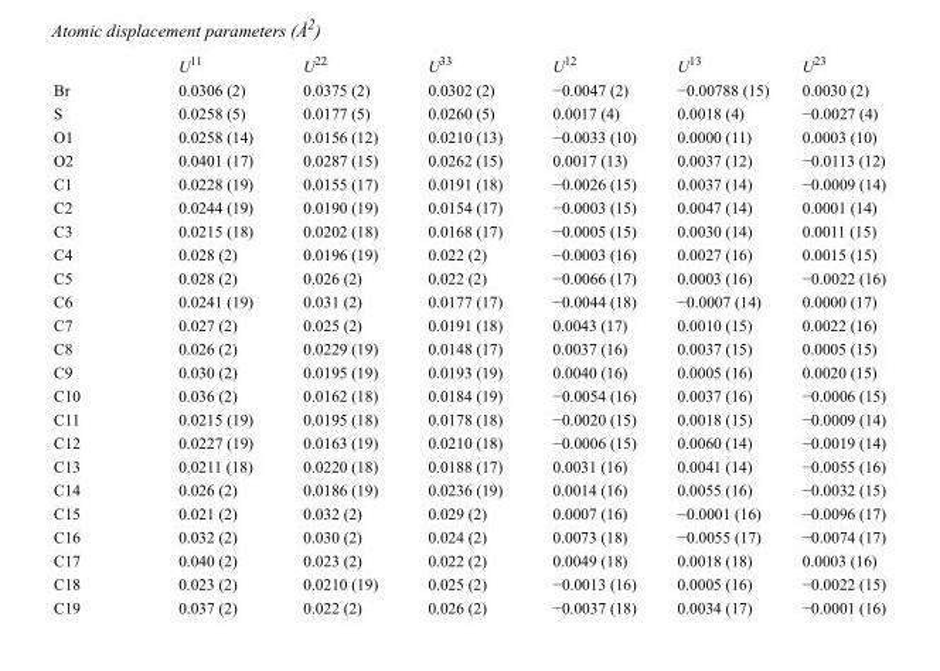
<table><thead><tr><td></td><td>U<sup>11</sup></td><td>U<sup>22</sup></td><td>U<sup>33</sup></td><td>U<sup>12</sup></td><td>U<sup>13</sup></td><td>U<sup>23</sup></td></tr></thead><tbody><tr><td>Br</td><td>0.0306 (2)</td><td>0.0375 (2)</td><td>0.0302 (2)</td><td>−0.0047 (2)</td><td>−0.00788 (15)</td><td>0.0030 (2)</td></tr><tr><td>S</td><td>0.0258 (5)</td><td>0.0177 (5)</td><td>0.0260 (5)</td><td>0.0017 (4)</td><td>0.0018 (4)</td><td>−0.0027 (4)</td></tr><tr><td>O1</td><td>0.0258 (14)</td><td>0.0156 (12)</td><td>0.0210 (13)</td><td>−0.0033 (10)</td><td>0.0000 (11)</td><td>0.0003 (10)</td></tr><tr><td>O2</td><td>0.0401 (17)</td><td>0.0287 (15)</td><td>0.0262 (15)</td><td>0.0017 (13)</td><td>0.0037 (12)</td><td>−0.0113 (12)</td></tr><tr><td>C1</td><td>0.0228 (19)</td><td>0.0155 (17)</td><td>0.0191 (18)</td><td>−0.0026 (15)</td><td>0.0037 (14)</td><td>−0.0009 (14)</td></tr><tr><td>C2</td><td>0.0244 (19)</td><td>0.0190 (19)</td><td>0.0154 (17)</td><td>−0.0003 (15)</td><td>0.0047 (14)</td><td>0.0001 (14)</td></tr><tr><td>C3</td><td>0.0215 (18)</td><td>0.0202 (18)</td><td>0.0168 (17)</td><td>−0.0005 (15)</td><td>0.0030 (14)</td><td>0.0011 (15)</td></tr><tr><td>C4</td><td>0.028 (2)</td><td>0.0196 (19)</td><td>0.022 (2)</td><td>−0.0003 (16)</td><td>0.0027 (16)</td><td>0.0015 (15)</td></tr><tr><td>C5</td><td>0.028 (2)</td><td>0.026 (2)</td><td>0.022 (2)</td><td>−0.0066 (17)</td><td>0.0003 (16)</td><td>−0.0022 (16)</td></tr><tr><td>C6</td><td>0.0241 (19)</td><td>0.031 (2)</td><td>0.0177 (17)</td><td>−0.0044 (18)</td><td>−0.0007 (14)</td><td>0.0000 (17)</td></tr><tr><td>C7</td><td>0.027 (2)</td><td>0.025 (2)</td><td>0.0191 (18)</td><td>0.0043 (17)</td><td>0.0010 (15)</td><td>0.0022 (16)</td></tr><tr><td>C8</td><td>0.026 (2)</td><td>0.0229 (19)</td><td>0.0148 (17)</td><td>0.0037 (16)</td><td>0.0037 (15)</td><td>0.0005 (15)</td></tr><tr><td>C9</td><td>0.030 (2)</td><td>0.0195 (19)</td><td>0.0193 (19)</td><td>0.0040 (16)</td><td>0.0005 (16)</td><td>0.0020 (15)</td></tr><tr><td>C10</td><td>0.036 (2)</td><td>0.0162 (18)</td><td>0.0184 (19)</td><td>−0.0054 (16)</td><td>0.0037 (16)</td><td>−0.0006 (15)</td></tr><tr><td>C11</td><td>0.0215 (19)</td><td>0.0195 (18)</td><td>0.0178 (18)</td><td>−0.0020 (15)</td><td>0.0018 (15)</td><td>−0.0009 (14)</td></tr><tr><td>C12</td><td>0.0227 (19)</td><td>0.0163 (19)</td><td>0.0210 (18)</td><td>−0.0006 (15)</td><td>0.0060 (14)</td><td>−0.0019 (14)</td></tr><tr><td>C13</td><td>0.0211 (18)</td><td>0.0220 (18)</td><td>0.0188 (17)</td><td>0.0031 (16)</td><td>0.0041 (14)</td><td>−0.0055 (16)</td></tr><tr><td>C14</td><td>0.026 (2)</td><td>0.0186 (19)</td><td>0.0236 (19)</td><td>0.0014 (16)</td><td>0.0055 (16)</td><td>−0.0032 (15)</td></tr><tr><td>C15</td><td>0.021 (2)</td><td>0.032 (2)</td><td>0.029 (2)</td><td>0.0007 (16)</td><td>−0.0001 (16)</td><td>−0.0096 (17)</td></tr><tr><td>C16</td><td>0.032 (2)</td><td>0.030 (2)</td><td>0.024 (2)</td><td>0.0073 (18)</td><td>−0.0055 (17)</td><td>−0.0074 (17)</td></tr><tr><td>C17</td><td>0.040 (2)</td><td>0.023 (2)</td><td>0.022 (2)</td><td>0.0049 (18)</td><td>0.0018 (18)</td><td>0.0003 (16)</td></tr><tr><td>C18</td><td>0.023 (2)</td><td>0.0210 (19)</td><td>0.025 (2)</td><td>−0.0013 (16)</td><td>0.0005 (16)</td><td>−0.0022 (15)</td></tr><tr><td>C19</td><td>0.037 (2)</td><td>0.022 (2)</td><td>0.026 (2)</td><td>−0.0037 (18)</td><td>0.0034 (17)</td><td>−0.0001 (16)</td></tr></tbody></table>